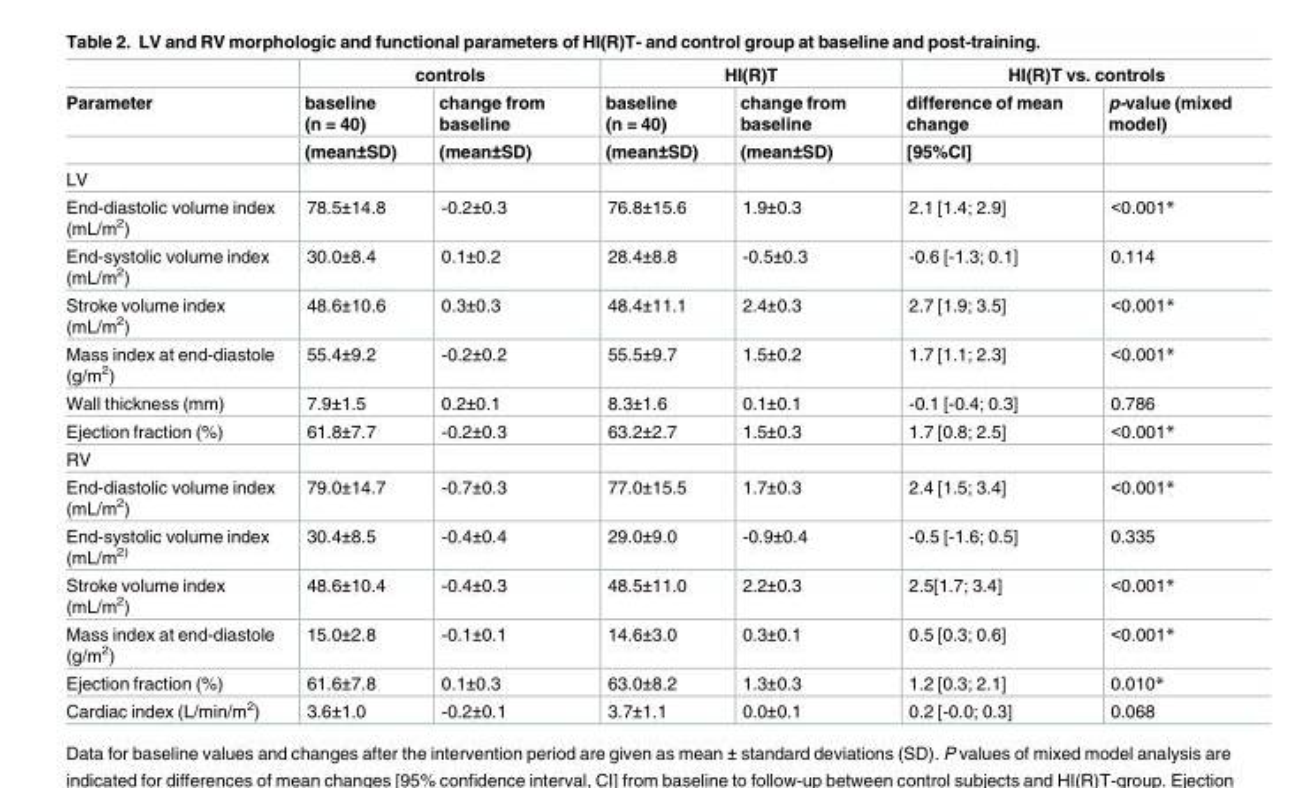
<table><thead><tr><td rowspan="3">Parameter</td><td colspan="2">controls</td><td colspan="2">HI(R)T</td><td colspan="2">HI(R)T vs. controls</td></tr><tr><td rowspan="2">baseline (n = 40) (mean±SD)</td><td rowspan="2">change from baseline (mean±SD)</td><td rowspan="2">baseline (n = 40) (mean±SD)</td><td rowspan="2">change from baseline (mean±SD)</td><td rowspan="2">difference of mean change [95%CI]</td><td rowspan="2">p-value (mixed model)</td></tr><tr></tr></thead><tbody><tr><td colspan="7">LV</td></tr><tr><td>End-diastolic volume index (mL/m<sup>2</sup>)</td><td>78.5±14.8</td><td>-0.2±0.3</td><td>76.8±15.6</td><td>1.9±0.3</td><td>2.1 [1.4; 2.9]</td><td>&lt;0.001*</td></tr><tr><td>End-systolic volume index (mL/m<sup>2</sup>)</td><td>30.0±8.4</td><td>0.1±0.2</td><td>28.4±8.8</td><td>-0.5±0.3</td><td>-0.6 [-1.3; 0.1]</td><td>0.114</td></tr><tr><td>Stroke volume index (mL/m<sup>2</sup>)</td><td>48.6±10.6</td><td>0.3±0.3</td><td>48.4±11.1</td><td>2.4±0.3</td><td>2.7 [1.9; 3.5]</td><td>&lt;0.001*</td></tr><tr><td>Mass index at end-diastole (g/m<sup>2</sup>)</td><td>55.4±9.2</td><td>-0.2±0.2</td><td>55.5±9.7</td><td>1.5±0.2</td><td>1.7 [1.1; 2.3]</td><td>&lt;0.001*</td></tr><tr><td>Wall thickness (mm)</td><td>7.9±1.5</td><td>0.2±0.1</td><td>8.3±1.6</td><td>0.1±0.1</td><td>-0.1 [-0.4; 0.3]</td><td>0.786</td></tr><tr><td>Ejection fraction (%)</td><td>61.8±7.7</td><td>-0.2±0.3</td><td>63.2±2.7</td><td>1.5±0.3</td><td>1.7 [0.8; 2.5]</td><td>&lt;0.001*</td></tr><tr><td colspan="7">RV</td></tr><tr><td>End-diastolic volume index (mL/m<sup>2</sup>)</td><td>79.0±14.7</td><td>-0.7±0.3</td><td>77.0±15.5</td><td>1.7±0.3</td><td>2.4 [1.5; 3.4]</td><td>&lt;0.001*</td></tr><tr><td>End-systolic volume index (mL/m<sup>2)</sup></td><td>30.4±8.5</td><td>-0.4±0.4</td><td>29.0±9.0</td><td>-0.9±0.4</td><td>-0.5 [-1.6; 0.5]</td><td>0.335</td></tr><tr><td>Stroke volume index (mL/m<sup>2</sup>)</td><td>48.6±10.4</td><td>-0.4±0.3</td><td>48.5±11.0</td><td>2.2±0.3</td><td>2.5[1.7; 3.4]</td><td>&lt;0.001*</td></tr><tr><td>Mass index at end-diastole (g/m<sup>2</sup>)</td><td>15.0±2.8</td><td>-0.1±0.1</td><td>14.6±3.0</td><td>0.3±0.1</td><td>0.5 [0.3; 0.6]</td><td>&lt;0.001*</td></tr><tr><td>Ejection fraction (%)</td><td>61.6±7.8</td><td>0.1±0.3</td><td>63.0±8.2</td><td>1.3±0.3</td><td>1.2 [0.3; 2.1]</td><td>0.010*</td></tr><tr><td>Cardiac index (L/min/m<sup>2</sup>)</td><td>3.6±1.0</td><td>-0.2±0.1</td><td>3.7±1.1</td><td>0.0±0.1</td><td>0.2 [-0.0; 0.3]</td><td>0.068</td></tr></tbody></table>